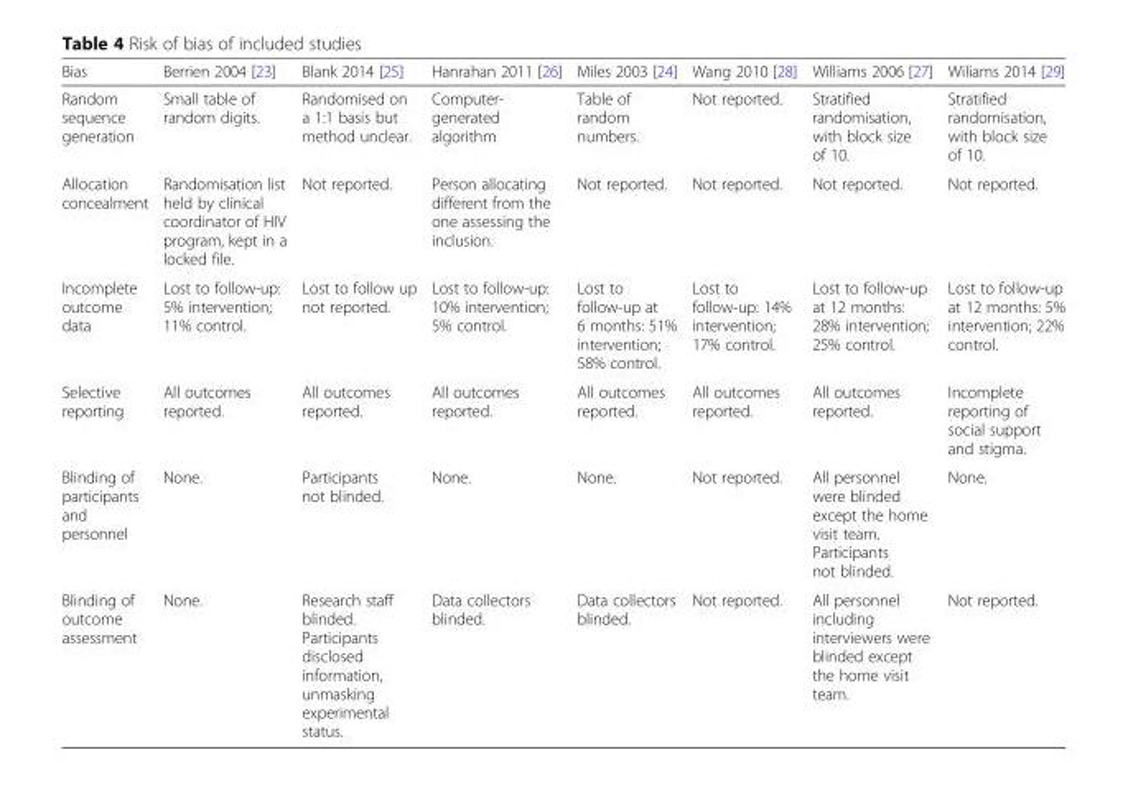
<table><thead><tr><td>Bias</td><td>Berrien 2004 [23]</td><td>Blank 2014 [25]</td><td>Hanrahan 2011 [26]</td><td>Miles 2003 [24]</td><td>Wang 2010 [28]</td><td>Williams 2006 [27]</td><td>Wiliams 2014 [29]</td></tr></thead><tbody><tr><td>Random sequence generation</td><td>Small table of random digits.</td><td>Randomised on a 1:1 basis but method unclear.</td><td>Computer- generated algorithm</td><td>Table of random numbers.</td><td>Not reported.</td><td>Stratified randomisation, with block size of 10.</td><td>Stratified randomisation, with block size of 10.</td></tr><tr><td>Allocation concealment</td><td>Randomisation list held by clinical coordinator of HIV program, kept in a locked file.</td><td>Not reported.</td><td>Person allocating different from the one assessing the inclusion.</td><td>Not reported.</td><td>Not reported.</td><td>Not reported.</td><td>Not reported.</td></tr><tr><td>Incomplete outcome data</td><td>Lost to follow-up: 5% intervention; 11% control.</td><td>Lost to follow up not reported.</td><td>Lost to follow-up: 10% intervention; 5% control.</td><td>Lost to follow-up at 6 months: 51% intervention; 58% control.</td><td>Lost to follow-up: 14% intervention; 17% control.</td><td>Lost to follow-up at 12 months: 28% intervention; 25% control.</td><td>Lost to follow-up at 12 months: 5% intervention; 22% control.</td></tr><tr><td>Selective reporting</td><td>All outcomes reported.</td><td>All outcomes reported.</td><td>All outcomes reported.</td><td>All outcomes reported.</td><td>All outcomes reported.</td><td>All outcomes reported.</td><td>Incomplete reporting of social support and stigma.</td></tr><tr><td>Blinding of participants and personnel</td><td>None.</td><td>Participants not blinded.</td><td>None.</td><td>None.</td><td>Not reported.</td><td>All personnel were blinded except the home visit team. Participants not blinded.</td><td>None.</td></tr><tr><td>Blinding of outcome assessment</td><td>None.</td><td>Research staff blinded. Participants disclosed information, unmasking experimental status.</td><td>Data collectors blinded.</td><td>Data collectors blinded.</td><td>Not reported.</td><td>All personnel including interviewers were blinded except the home visit team.</td><td>Not reported.</td></tr></tbody></table>